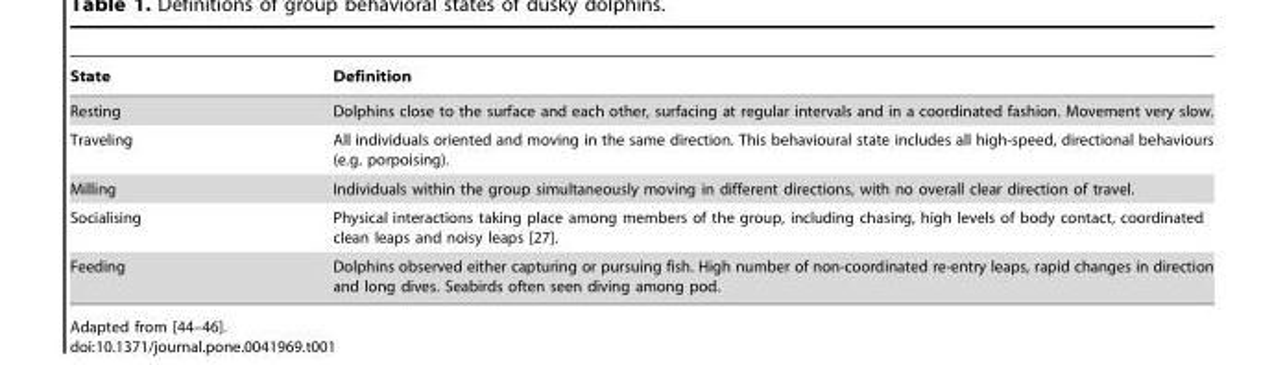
<table><thead><tr><td>State</td><td>Definition</td></tr></thead><tbody><tr><td>Resting</td><td>Dolphins close to the surface and each other, surfacing at regular intervals and in a coordinated fashion. Movement very slow.</td></tr><tr><td>Traveling</td><td>All individuals oriented and moving in the same direction. This behavioural state includes all high-speed, directional behaviours (e.g. porpoising).</td></tr><tr><td>Milling</td><td>Individuals within the group simultaneously moving in different directions, with no overall clear direction of travel.</td></tr><tr><td>Socialising</td><td>Physical interactions taking place among members of the group, including chasing, high levels of body contact, coordinated clean leaps and noisy leaps [27].</td></tr><tr><td>Feeding</td><td>Dolphins observed either capturing or pursuing fish. High number of non-coordinated re-entry leaps, rapid changes in direction and long dives. Seabirds often seen diving among pod.</td></tr></tbody></table>